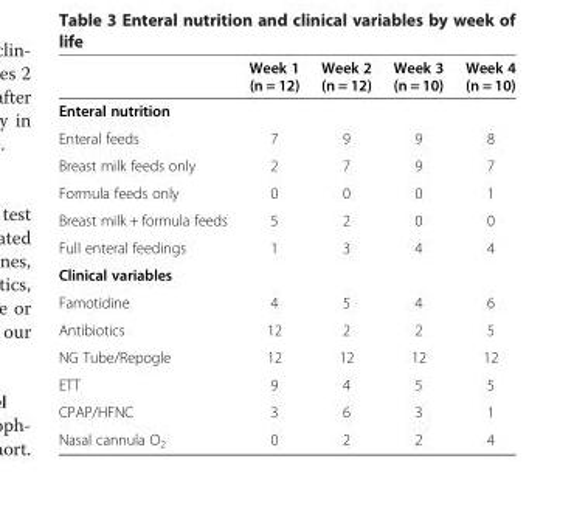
<table><thead><tr><td></td><td>Week 1 (n = 12)</td><td>Week 2 (n = 12)</td><td>Week 3 (n = 10)</td><td>Week 4 (n = 10)</td></tr></thead><tbody><tr><td colspan="5">Enteral nutrition</td></tr><tr><td>Enteral feeds</td><td>7</td><td>9</td><td>9</td><td>8</td></tr><tr><td>Breast milk feeds only</td><td>2</td><td>7</td><td>9</td><td>7</td></tr><tr><td>Formula feeds only</td><td>0</td><td>0</td><td>0</td><td>1</td></tr><tr><td>Breast milk + formula feeds</td><td>5</td><td>2</td><td>0</td><td>0</td></tr><tr><td>Full enteral feedings</td><td>1</td><td>3</td><td>4</td><td>4</td></tr><tr><td colspan="5">Clinical variables</td></tr><tr><td>Famotidine</td><td>4</td><td>5</td><td>4</td><td>6</td></tr><tr><td>Antibiotics</td><td>12</td><td>2</td><td>2</td><td>5</td></tr><tr><td>NG Tube/Repogle</td><td>12</td><td>12</td><td>12</td><td>12</td></tr><tr><td>ETT</td><td>9</td><td>4</td><td>5</td><td>5</td></tr><tr><td>CPAP/HFNC</td><td>3</td><td>6</td><td>3</td><td>1</td></tr><tr><td>Nasal cannula O<sub>2</sub></td><td>0</td><td>2</td><td>2</td><td>4</td></tr></tbody></table>